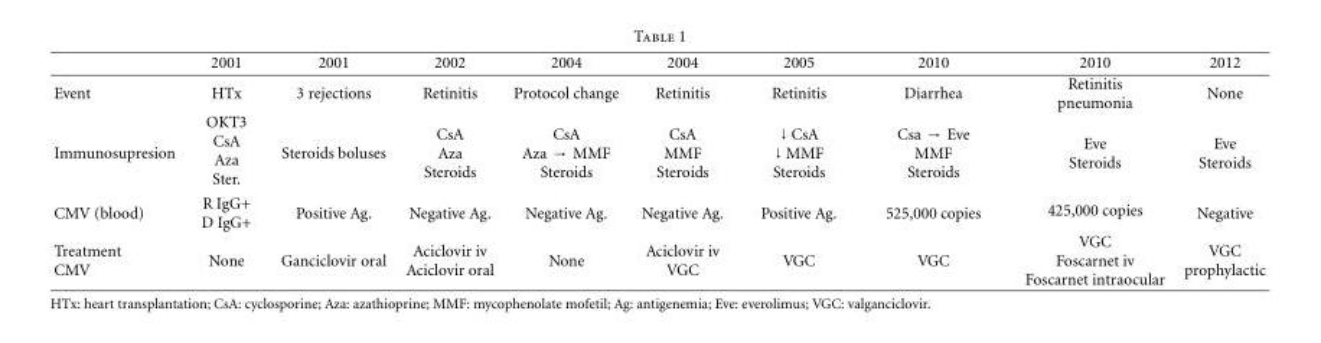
<table><thead><tr><td></td><td>2001</td><td>2001</td><td>2002</td><td>2004</td><td>2004</td><td>2005</td><td>2010</td><td>2010</td><td>2012</td></tr></thead><tbody><tr><td>Event</td><td>HTx</td><td>3 rejections</td><td>Retinitis</td><td>Protocol change</td><td>Retinitis</td><td>Retinitis</td><td>Diarrhea</td><td>Retinitis pneumonia</td><td>None</td></tr><tr><td>Immunosupresion</td><td>OKT3 CsA Aza Ster.</td><td>Steroids boluses</td><td>CsA Aza Steroids</td><td>CsA Aza → MMF Steroids</td><td>CsA MMF Steroids</td><td>↓ CsA ↓ MMF Steroids</td><td>Csa → Eve MMF Steroids</td><td>Eve Steroids</td><td>Eve Steroids</td></tr><tr><td>CMV (blood)</td><td>R IgG+ D IgG+</td><td>Positive Ag.</td><td>Negative Ag.</td><td>Negative Ag.</td><td>Negative Ag.</td><td>Positive Ag.</td><td>525,000 copies</td><td>425,000 copies</td><td>Negative</td></tr><tr><td>Treatment CMV</td><td>None</td><td>Ganciclovir oral</td><td>Aciclovir iv Aciclovir oral</td><td>None</td><td>Aciclovir iv VGC</td><td>VGC</td><td>VGC</td><td>VGC Foscarnet iv Foscarnet intraocular</td><td>VGC prophylactic</td></tr></tbody></table>